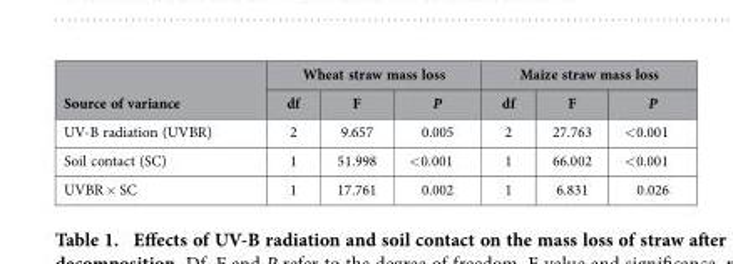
<table><thead><tr><td rowspan="2">Source of variance</td><td colspan="3">Wheat straw mass loss</td><td colspan="3">Maize straw mass loss</td></tr><tr><td>df</td><td>F</td><td>P</td><td>df</td><td>F</td><td>P</td></tr></thead><tbody><tr><td>UV-B radiation (UVBR)</td><td>2</td><td>9.657</td><td>0.005</td><td>2</td><td>27.763</td><td>&lt;0.001</td></tr><tr><td>Soil contact (SC)</td><td>1</td><td>51.998</td><td>&lt;0.001</td><td>1</td><td>66.002</td><td>&lt;0.001</td></tr><tr><td>UVBR × SC</td><td>1</td><td>17.761</td><td>0.002</td><td>1</td><td>6.831</td><td>0.026</td></tr></tbody></table>